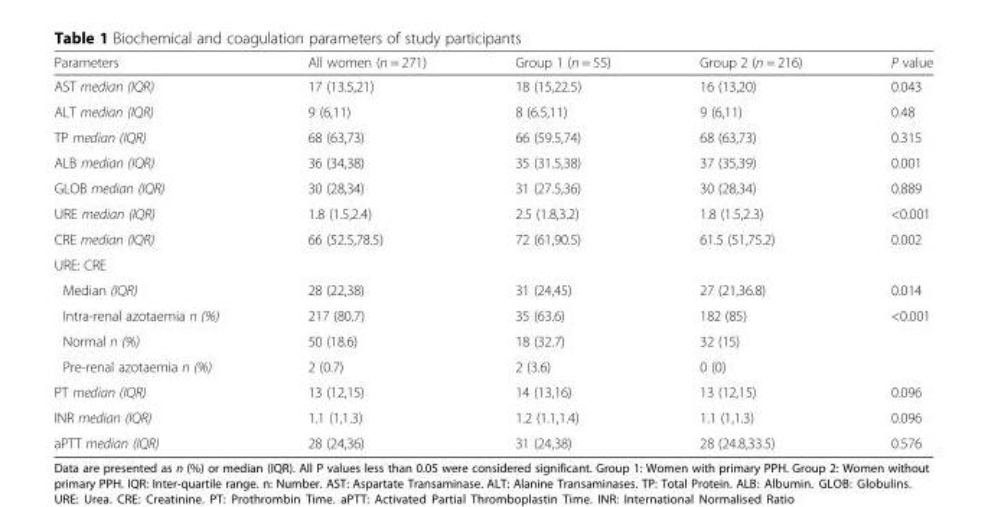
<table><thead><tr><td>Parameters</td><td>All women (n = 271)</td><td>Group 1 (n = 55)</td><td>Group 2 (n = 216)</td><td>P value</td></tr></thead><tbody><tr><td>AST median (IQR)</td><td>17 (13.5,21)</td><td>18 (15,22.5)</td><td>16 (13,20)</td><td>0.043</td></tr><tr><td>ALT median (IQR)</td><td>9 (6,11)</td><td>8 (6.5,11)</td><td>9 (6,11)</td><td>0.48</td></tr><tr><td>TP median (IQR)</td><td>68 (63,73)</td><td>66 (59.5,74)</td><td>68 (63,73)</td><td>0.315</td></tr><tr><td>ALB median (IQR)</td><td>36 (34,38)</td><td>35 (31.5,38)</td><td>37 (35,39)</td><td>0.001</td></tr><tr><td>GLOB median (IQR)</td><td>30 (28,34)</td><td>31 (27.5,36)</td><td>30 (28,34)</td><td>0.889</td></tr><tr><td>URE median (IQR)</td><td>1.8 (1.5,2.4)</td><td>2.5 (1.8,3.2)</td><td>1.8 (1.5,2.3)</td><td>&lt;0.001</td></tr><tr><td>CRE median (IQR)</td><td>66 (52.5,78.5)</td><td>72 (61,90.5)</td><td>61.5 (51,75.2)</td><td>0.002</td></tr><tr><td colspan="5">URE: CRE</td></tr><tr><td>Median (IQR)</td><td>28 (22,38)</td><td>31 (24,45)</td><td>27 (21,36.8)</td><td>0.014</td></tr><tr><td>Intra-renal azotaemia n (%)</td><td>217 (80.7)</td><td>35 (63.6)</td><td>182 (85)</td><td rowspan="3">&lt;0.001</td></tr><tr><td>Normal n (%)</td><td>50 (18.6)</td><td>18 (32.7)</td><td>32 (15)</td></tr><tr><td>Pre-renal azotaemia n (%)</td><td>2 (0.7)</td><td>2 (3.6)</td><td>0 (0)</td></tr><tr><td>PT median (IQR)</td><td>13 (12,15)</td><td>14 (13,16)</td><td>13 (12,15)</td><td>0.096</td></tr><tr><td>INR median (IQR)</td><td>1.1 (1,1.3)</td><td>1.2 (1.1,1.4)</td><td>1.1 (1,1.3)</td><td>0.096</td></tr><tr><td>aPTT median (IQR)</td><td>28 (24,36)</td><td>31 (24,38)</td><td>28 (24.8,33.5)</td><td>0.576</td></tr></tbody></table>